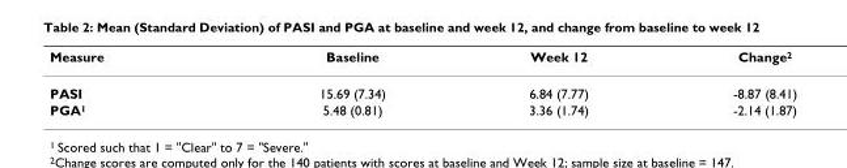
<table><thead><tr><td>Measure</td><td>Baseline</td><td>Week 12</td><td>Change<sup>2</sup></td></tr></thead><tbody><tr><td>PASI</td><td>15.69 (7.34)</td><td>6.84 (7.77)</td><td>-8.87 (8.41)</td></tr><tr><td>PGA<sup>1</sup></td><td>5.48 (0.81)</td><td>3.36 (1.74)</td><td>-2.14 (1.87)</td></tr></tbody></table>